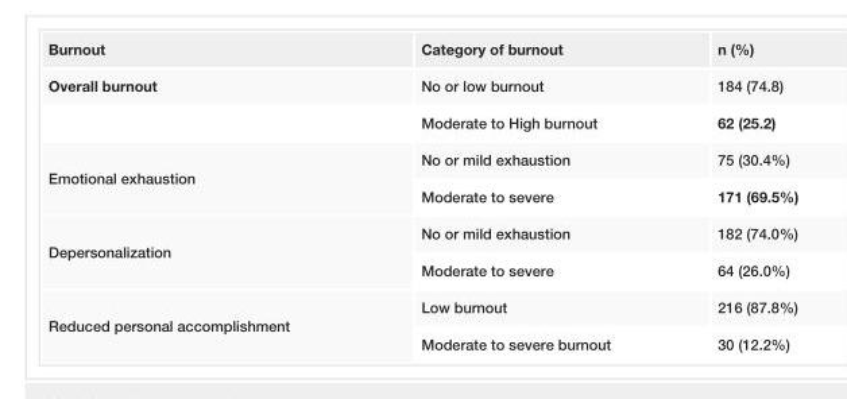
<table><tbody><tr><td>Burnout</td><td>Category of burnout</td><td>n (%)</td></tr><tr><td rowspan="2">Overall burnout</td><td>No or low burnout</td><td>184 (74.8)</td></tr><tr><td>Moderate to High burnout</td><td>62 (25.2)</td></tr><tr><td rowspan="2">Emotional exhaustion</td><td>No or mild exhaustion</td><td>75 (30.4%)</td></tr><tr><td>Moderate to severe</td><td>171 (69.5%)</td></tr><tr><td rowspan="2">Depersonalization</td><td>No or mild exhaustion</td><td>182 (74.0%)</td></tr><tr><td>Moderate to severe</td><td>64 (26.0%)</td></tr><tr><td rowspan="2">Reduced personal accomplishment</td><td>Low burnout</td><td>216 (87.8%)</td></tr><tr><td>Moderate to severe burnout</td><td>30 (12.2%)</td></tr></tbody></table>